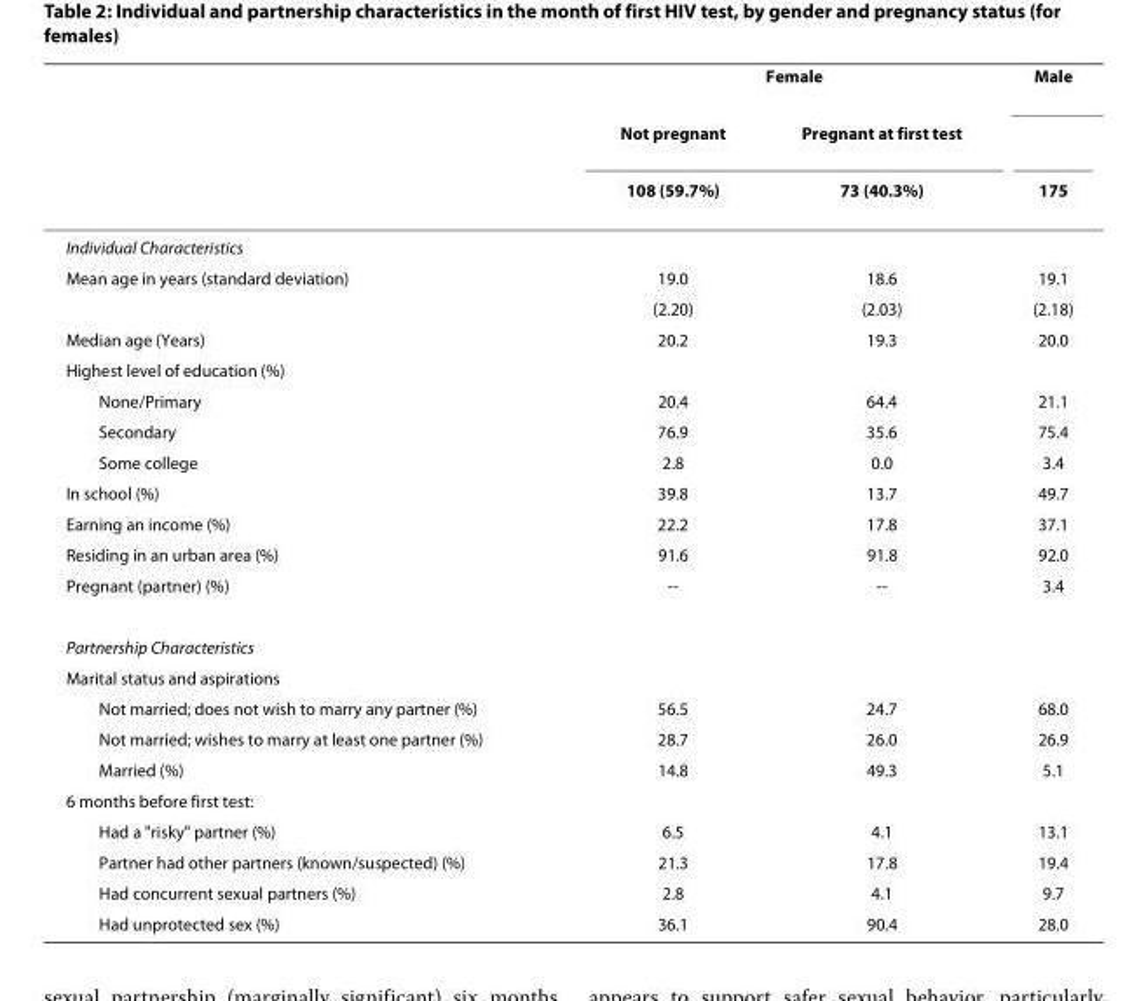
<table><thead><tr><td rowspan="3"></td><td colspan="2">Female</td><td rowspan="3">Male 175</td></tr><tr><td rowspan="2">Not pregnant 108 (59.7%)</td><td rowspan="2">Pregnant at first test 73 (40.3%)</td></tr><tr></tr></thead><tbody><tr><td colspan="4">Individual Characteristics</td></tr><tr><td rowspan="2">Mean age in years (standard deviation)</td><td>19.0</td><td>18.6</td><td>19.1</td></tr><tr><td>(2.20)</td><td>(2.03)</td><td>(2.18)</td></tr><tr><td>Median age (Years)</td><td>20.2</td><td>19.3</td><td>20.0</td></tr><tr><td colspan="4">Highest level of education (%)</td></tr><tr><td>None/Primary</td><td>20.4</td><td>64.4</td><td>21.1</td></tr><tr><td>Secondary</td><td>76.9</td><td>35.6</td><td>75.4</td></tr><tr><td>Some college</td><td>2.8</td><td>0.0</td><td>3.4</td></tr><tr><td>In school (%)</td><td>39.8</td><td>13.7</td><td>49.7</td></tr><tr><td>Earning an income (%)</td><td>22.2</td><td>17.8</td><td>37.1</td></tr><tr><td>Residing in an urban area (%)</td><td>91.6</td><td>91.8</td><td>92.0</td></tr><tr><td>Pregnant (partner) (%)</td><td>--</td><td>--</td><td>3.4</td></tr><tr><td colspan="4">Partnership Characteristics</td></tr><tr><td colspan="4">Marital status and aspirations</td></tr><tr><td>Not married; does not wish to marry any partner (%)</td><td>56.5</td><td>24.7</td><td>68.0</td></tr><tr><td>Not married; wishes to marry at least one partner (%)</td><td>28.7</td><td>26.0</td><td>26.9</td></tr><tr><td>Married (%)</td><td>14.8</td><td>49.3</td><td>5.1</td></tr><tr><td colspan="4">6 months before first test:</td></tr><tr><td>Had a &quot;risky&quot; partner (%)</td><td>6.5</td><td>4.1</td><td>13.1</td></tr><tr><td>Partner had other partners (known/suspected) (%)</td><td>21.3</td><td>17.8</td><td>19.4</td></tr><tr><td>Had concurrent sexual partners (%)</td><td>2.8</td><td>4.1</td><td>9.7</td></tr><tr><td>Had unprotected sex (%)</td><td>36.1</td><td>90.4</td><td>28.0</td></tr></tbody></table>